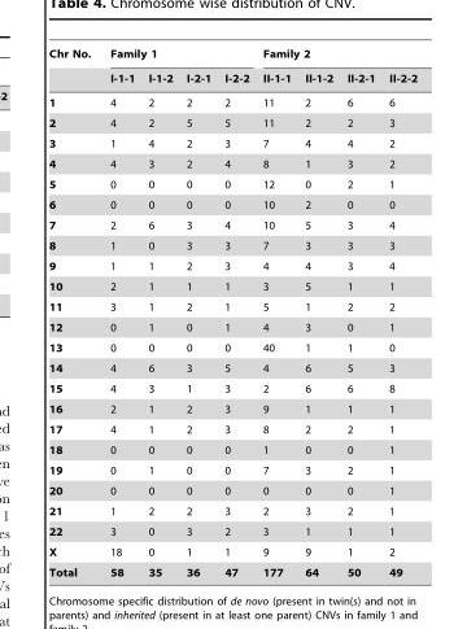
<table><thead><tr><td rowspan="2">Chr No.</td><td colspan="4">Family 1</td><td colspan="4">Family 2</td></tr><tr><td>I-1-1</td><td>I-1-2</td><td>I-2-1</td><td>I-2-2</td><td>II-1-1</td><td>II-1-2</td><td>II-2-1</td><td>II-2-2</td></tr></thead><tbody><tr><td>1</td><td>4</td><td>2</td><td>2</td><td>2</td><td>11</td><td>2</td><td>6</td><td>6</td></tr><tr><td>2</td><td>4</td><td>2</td><td>5</td><td>5</td><td>11</td><td>2</td><td>2</td><td>3</td></tr><tr><td>3</td><td>1</td><td>4</td><td>2</td><td>3</td><td>7</td><td>4</td><td>4</td><td>2</td></tr><tr><td>4</td><td>4</td><td>3</td><td>2</td><td>4</td><td>8</td><td>1</td><td>3</td><td>2</td></tr><tr><td>5</td><td>0</td><td>0</td><td>0</td><td>0</td><td>12</td><td>0</td><td>2</td><td>1</td></tr><tr><td>6</td><td>0</td><td>0</td><td>0</td><td>0</td><td>10</td><td>2</td><td>0</td><td>0</td></tr><tr><td>7</td><td>2</td><td>6</td><td>3</td><td>4</td><td>10</td><td>5</td><td>3</td><td>4</td></tr><tr><td>8</td><td>1</td><td>0</td><td>3</td><td>3</td><td>7</td><td>3</td><td>3</td><td>3</td></tr><tr><td>9</td><td>1</td><td>1</td><td>2</td><td>3</td><td>4</td><td>4</td><td>3</td><td>4</td></tr><tr><td>10</td><td>2</td><td>1</td><td>1</td><td>1</td><td>3</td><td>5</td><td>1</td><td>1</td></tr><tr><td>11</td><td>3</td><td>1</td><td>2</td><td>1</td><td>5</td><td>1</td><td>2</td><td>2</td></tr><tr><td>12</td><td>0</td><td>1</td><td>0</td><td>1</td><td>4</td><td>3</td><td>0</td><td>1</td></tr><tr><td>13</td><td>0</td><td>0</td><td>0</td><td>0</td><td>40</td><td>1</td><td>1</td><td>0</td></tr><tr><td>14</td><td>4</td><td>6</td><td>3</td><td>5</td><td>4</td><td>6</td><td>5</td><td>3</td></tr><tr><td>15</td><td>4</td><td>3</td><td>1</td><td>3</td><td>2</td><td>6</td><td>6</td><td>8</td></tr><tr><td>16</td><td>2</td><td>1</td><td>2</td><td>3</td><td>9</td><td>1</td><td>1</td><td>1</td></tr><tr><td>17</td><td>4</td><td>1</td><td>2</td><td>3</td><td>8</td><td>2</td><td>2</td><td>1</td></tr><tr><td>18</td><td>0</td><td>0</td><td>0</td><td>0</td><td>1</td><td>0</td><td>0</td><td>1</td></tr><tr><td>19</td><td>0</td><td>1</td><td>0</td><td>0</td><td>7</td><td>3</td><td>2</td><td>1</td></tr><tr><td>20</td><td>0</td><td>0</td><td>0</td><td>0</td><td>0</td><td>0</td><td>0</td><td>1</td></tr><tr><td>21</td><td>1</td><td>2</td><td>2</td><td>3</td><td>2</td><td>3</td><td>2</td><td>1</td></tr><tr><td>22</td><td>3</td><td>0</td><td>3</td><td>2</td><td>3</td><td>1</td><td>1</td><td>1</td></tr><tr><td>X</td><td>18</td><td>0</td><td>1</td><td>1</td><td>9</td><td>9</td><td>1</td><td>2</td></tr><tr><td>Total</td><td>58</td><td>35</td><td>36</td><td>47</td><td>177</td><td>64</td><td>50</td><td>49</td></tr></tbody></table>